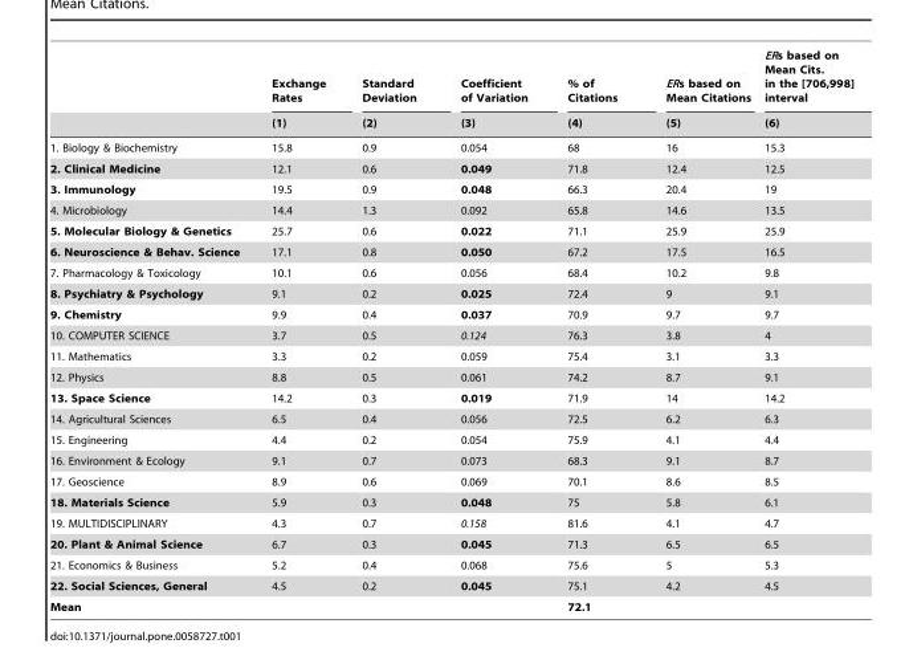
<table><thead><tr><td rowspan="2"></td><td rowspan="2">Exchange Rates (1)</td><td rowspan="2">Standard Deviation (2)</td><td rowspan="2">Coefficient of Variation (3)</td><td rowspan="2">% of Citations (4)</td><td rowspan="2">ERs based on Mean Citations (5)</td><td rowspan="2">ERs based on Mean Cits. in the [706,998] interval (6)</td></tr><tr></tr></thead><tbody><tr><td>1. Biology &amp; Biochemistry</td><td>15.8</td><td>0.9</td><td>0.054</td><td>68</td><td>16</td><td>15.3</td></tr><tr><td>2. Clinical Medicine</td><td>12.1</td><td>0.6</td><td>0.049</td><td>71.8</td><td>12.4</td><td>12.5</td></tr><tr><td>3. Immunology</td><td>19.5</td><td>0.9</td><td>0.048</td><td>66.3</td><td>20.4</td><td>19</td></tr><tr><td>4. Microbiology</td><td>14.4</td><td>1.3</td><td>0.092</td><td>65.8</td><td>14.6</td><td>13.5</td></tr><tr><td>5. Molecular Biology &amp; Genetics</td><td>25.7</td><td>0.6</td><td>0.022</td><td>71.1</td><td>25.9</td><td>25.9</td></tr><tr><td>6. Neuroscience &amp; Behav. Science</td><td>17.1</td><td>0.8</td><td>0.050</td><td>67.2</td><td>17.5</td><td>16.5</td></tr><tr><td>7. Pharmacology &amp; Toxicology</td><td>10.1</td><td>0.6</td><td>0.056</td><td>68.4</td><td>10.2</td><td>9.8</td></tr><tr><td>8. Psychiatry &amp; Psychology</td><td>9.1</td><td>0.2</td><td>0.025</td><td>72.4</td><td>9</td><td>9.1</td></tr><tr><td>9. Chemistry</td><td>9.9</td><td>0.4</td><td>0.037</td><td>70.9</td><td>9.7</td><td>9.7</td></tr><tr><td>10. COMPUTER SCIENCE</td><td>3.7</td><td>0.5</td><td>0.124</td><td>76.3</td><td>3.8</td><td>4</td></tr><tr><td>11. Mathematics</td><td>3.3</td><td>0.2</td><td>0.059</td><td>75.4</td><td>3.1</td><td>3.3</td></tr><tr><td>12. Physics</td><td>8.8</td><td>0.5</td><td>0.061</td><td>74.2</td><td>8.7</td><td>9.1</td></tr><tr><td>13. Space Science</td><td>14.2</td><td>0.3</td><td>0.019</td><td>71.9</td><td>14</td><td>14.2</td></tr><tr><td>14. Agricultural Sciences</td><td>6.5</td><td>0.4</td><td>0.056</td><td>72.5</td><td>6.2</td><td>6.3</td></tr><tr><td>15. Engineering</td><td>4.4</td><td>0.2</td><td>0.054</td><td>75.9</td><td>4.1</td><td>4.4</td></tr><tr><td>16. Environment &amp; Ecology</td><td>9.1</td><td>0.7</td><td>0.073</td><td>68.3</td><td>9.1</td><td>8.7</td></tr><tr><td>17. Geoscience</td><td>8.9</td><td>0.6</td><td>0.069</td><td>70.1</td><td>8.6</td><td>8.5</td></tr><tr><td>18. Materials Science</td><td>5.9</td><td>0.3</td><td>0.048</td><td>75</td><td>5.8</td><td>6.1</td></tr><tr><td>19. MULTIDISCIPLINARY</td><td>4.3</td><td>0.7</td><td>0.158</td><td>81.6</td><td>4.1</td><td>4.7</td></tr><tr><td>20. Plant &amp; Animal Science</td><td>6.7</td><td>0.3</td><td>0.045</td><td>71.3</td><td>6.5</td><td>6.5</td></tr><tr><td>21. Economics &amp; Business</td><td>5.2</td><td>0.4</td><td>0.068</td><td>75.6</td><td>5</td><td>5.3</td></tr><tr><td>22. Social Sciences, General</td><td>4.5</td><td>0.2</td><td>0.045</td><td>75.1</td><td>4.2</td><td>4.5</td></tr><tr><td>Mean</td><td></td><td></td><td></td><td>72.1</td><td></td><td></td></tr></tbody></table>